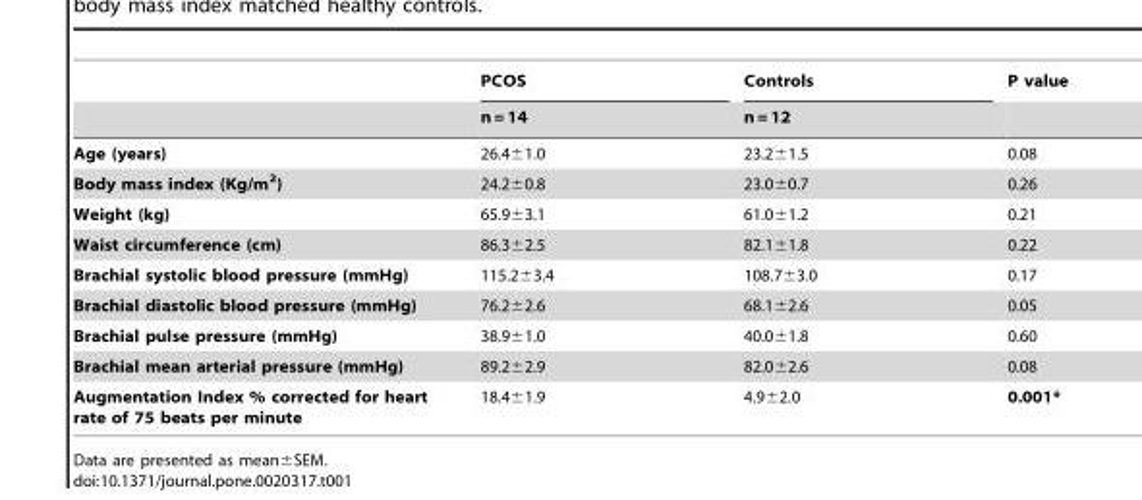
<table><thead><tr><td rowspan="2"></td><td rowspan="2">PCOS n = 14</td><td rowspan="2">Controls n = 12</td><td rowspan="2">P value</td></tr><tr></tr></thead><tbody><tr><td>Age (years)</td><td>26.4±1.0</td><td>23.2±1.5</td><td>0.08</td></tr><tr><td>Body mass index (Kg/m<sup>2</sup>)</td><td>24.2±0.8</td><td>23.0±0.7</td><td>0.26</td></tr><tr><td>Weight (kg)</td><td>65.9±3.1</td><td>61.0±1.2</td><td>0.21</td></tr><tr><td>Waist circumference (cm)</td><td>86.3±2.5</td><td>82.1±1.8</td><td>0.22</td></tr><tr><td>Brachial systolic blood pressure (mmHg)</td><td>115.2±3.4</td><td>108.7±3.0</td><td>0.17</td></tr><tr><td>Brachial diastolic blood pressure (mmHg)</td><td>76.2±2.6</td><td>68.1±2.6</td><td>0.05</td></tr><tr><td>Brachial pulse pressure (mmHg)</td><td>38.9±1.0</td><td>40.0±1.8</td><td>0.60</td></tr><tr><td>Brachial mean arterial pressure (mmHg)</td><td>89.2±2.9</td><td>82.0±2.6</td><td>0.08</td></tr><tr><td>Augmentation Index % corrected for heart rate of 75 beats per minute</td><td>18.4±1.9</td><td>4.9±2.0</td><td>0.001*</td></tr></tbody></table>